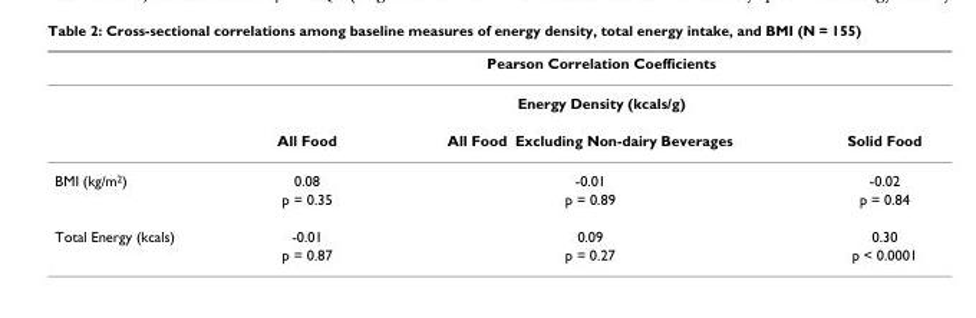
<table><thead><tr><td rowspan="3"></td><td rowspan="2" colspan="3">Pearson Correlation Coefficients Energy Density (kcals/g)</td></tr><tr></tr><tr><td>All Food</td><td>All Food Excluding Non-dairy Beverages</td><td>Solid Food</td></tr></thead><tbody><tr><td rowspan="2">BMI (kg/m<sup>2</sup>)</td><td>0.08</td><td>-0.01</td><td>-0.02</td></tr><tr><td>p = 0.35</td><td>p = 0.89</td><td>p = 0.84</td></tr><tr><td rowspan="2">Total Energy (kcals)</td><td>-0.01</td><td>0.09</td><td>0.30</td></tr><tr><td>p = 0.87</td><td>p = 0.27</td><td>p &lt; 0.0001</td></tr></tbody></table>